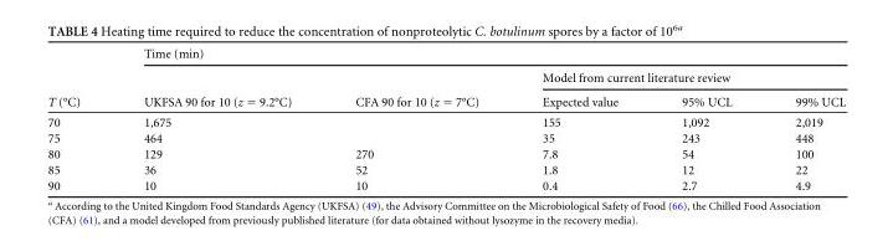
<table><thead><tr><td rowspan="3">T (°C)</td><td colspan="5">Time (min)</td></tr><tr><td rowspan="2">UKFSA 90 for 10 (z = 9.2°C)</td><td rowspan="2">CFA 90 for 10 (z = 7°C)</td><td colspan="3">Model from current literature review</td></tr><tr><td>Expected value</td><td>95% UCL</td><td>99% UCL</td></tr></thead><tbody><tr><td>70</td><td>1,675</td><td></td><td>155</td><td>1,092</td><td>2,019</td></tr><tr><td>75</td><td>464</td><td></td><td>35</td><td>243</td><td>448</td></tr><tr><td>80</td><td>129</td><td>270</td><td>7.8</td><td>54</td><td>100</td></tr><tr><td>85</td><td>36</td><td>52</td><td>1.8</td><td>12</td><td>22</td></tr><tr><td>90</td><td>10</td><td>10</td><td>0.4</td><td>2.7</td><td>4.9</td></tr></tbody></table>